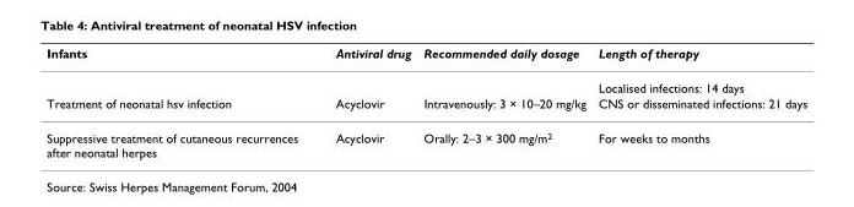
<table><thead><tr><td>Infants</td><td>Antiviral drug</td><td>Recommended daily dosage</td><td>Length of therapy</td></tr></thead><tbody><tr><td></td><td></td><td></td><td>Localised infections: 14 days</td></tr><tr><td>Treatment of neonatal hsv infection</td><td>Acyclovir</td><td>Intravenously: 3 × 10–20 mg/kg</td><td>CNS or disseminated infections: 21 days</td></tr><tr><td>Suppressive treatment of cutaneous recurrences after neonatal herpes</td><td>Acyclovir</td><td>Orally: 2–3 × 300 mg/m<sup>2</sup></td><td>For weeks to months</td></tr></tbody></table>